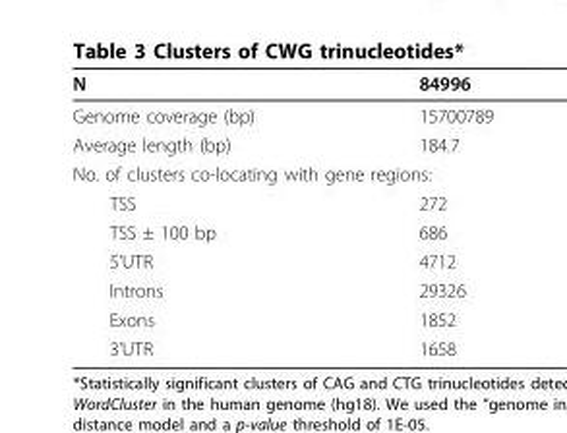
<table><thead><tr><td>N</td><td>84996</td></tr></thead><tbody><tr><td>Genome coverage (bp)</td><td>15700789</td></tr><tr><td>Average length (bp)</td><td>184.7</td></tr><tr><td colspan="2">No. of clusters co-locating with gene regions:</td></tr><tr><td>TSS</td><td>272</td></tr><tr><td>TSS ± 100 bp</td><td>686</td></tr><tr><td>5’UTR</td><td>4712</td></tr><tr><td>Introns</td><td>29326</td></tr><tr><td>Exons</td><td>1852</td></tr><tr><td>3’UTR</td><td>1658</td></tr></tbody></table>